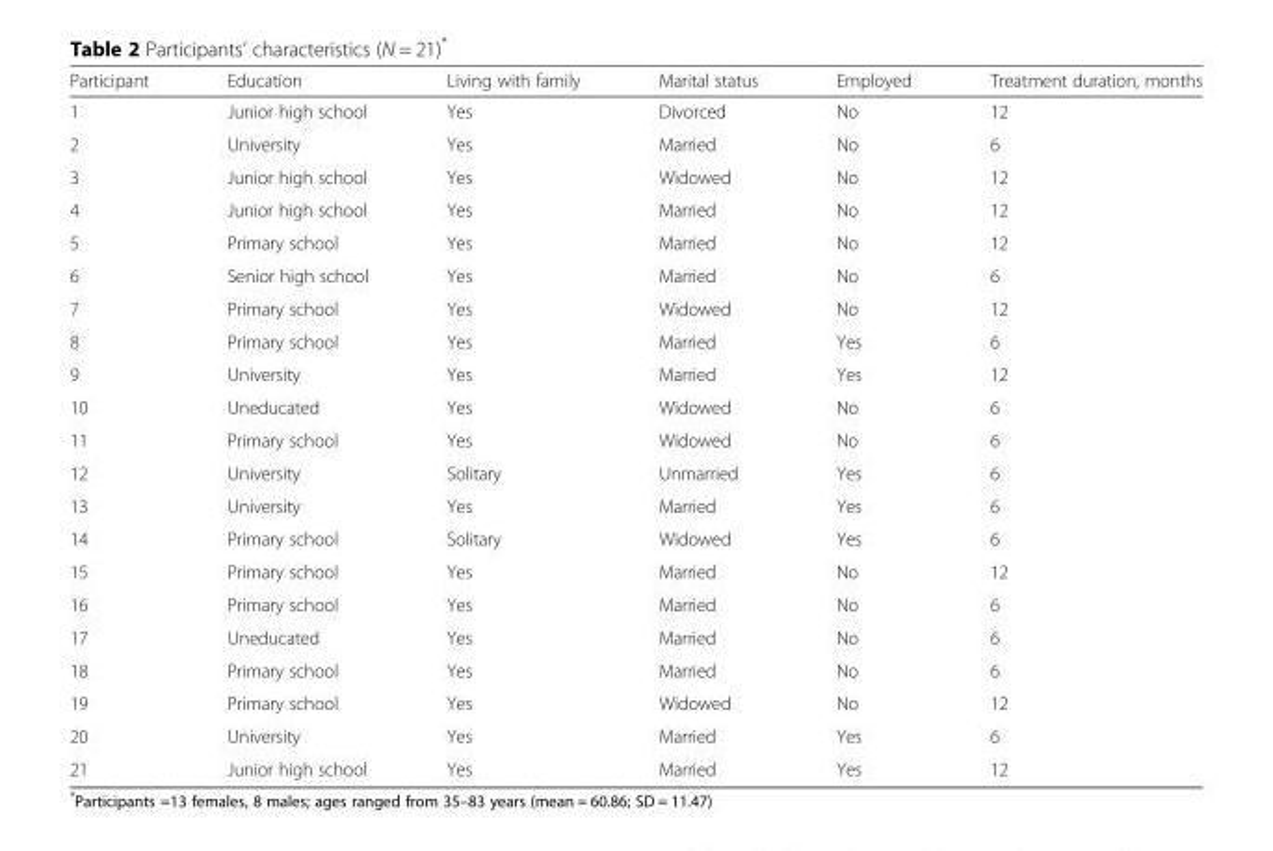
<table><thead><tr><td>Participant</td><td>Education</td><td>Living with family</td><td>Marital status</td><td>Employed</td><td>Treatment duration, months</td></tr></thead><tbody><tr><td>1</td><td>Junior high school</td><td>Yes</td><td>Divorced</td><td>No</td><td>12</td></tr><tr><td>2</td><td>University</td><td>Yes</td><td>Married</td><td>No</td><td>6</td></tr><tr><td>3</td><td>Junior high school</td><td>Yes</td><td>Widowed</td><td>No</td><td>12</td></tr><tr><td>4</td><td>Junior high school</td><td>Yes</td><td>Married</td><td>No</td><td>12</td></tr><tr><td>5</td><td>Primary school</td><td>Yes</td><td>Married</td><td>No</td><td>12</td></tr><tr><td>6</td><td>Senior high school</td><td>Yes</td><td>Married</td><td>No</td><td>6</td></tr><tr><td>7</td><td>Primary school</td><td>Yes</td><td>Widowed</td><td>No</td><td>12</td></tr><tr><td>8</td><td>Primary school</td><td>Yes</td><td>Married</td><td>Yes</td><td>6</td></tr><tr><td>9</td><td>University</td><td>Yes</td><td>Married</td><td>Yes</td><td>12</td></tr><tr><td>10</td><td>Uneducated</td><td>Yes</td><td>Widowed</td><td>No</td><td>6</td></tr><tr><td>11</td><td>Primary school</td><td>Yes</td><td>Widowed</td><td>No</td><td>6</td></tr><tr><td>12</td><td>University</td><td>Solitary</td><td>Unmarried</td><td>Yes</td><td>6</td></tr><tr><td>13</td><td>University</td><td>Yes</td><td>Married</td><td>Yes</td><td>6</td></tr><tr><td>14</td><td>Primary school</td><td>Solitary</td><td>Widowed</td><td>Yes</td><td>6</td></tr><tr><td>15</td><td>Primary school</td><td>Yes</td><td>Married</td><td>No</td><td>12</td></tr><tr><td>16</td><td>Primary school</td><td>Yes</td><td>Married</td><td>No</td><td>6</td></tr><tr><td>17</td><td>Uneducated</td><td>Yes</td><td>Married</td><td>No</td><td>6</td></tr><tr><td>18</td><td>Primary school</td><td>Yes</td><td>Married</td><td>No</td><td>6</td></tr><tr><td>19</td><td>Primary school</td><td>Yes</td><td>Widowed</td><td>No</td><td>12</td></tr><tr><td>20</td><td>University</td><td>Yes</td><td>Married</td><td>Yes</td><td>6</td></tr><tr><td>21</td><td>Junior high school</td><td>Yes</td><td>Married</td><td>Yes</td><td>12</td></tr></tbody></table>